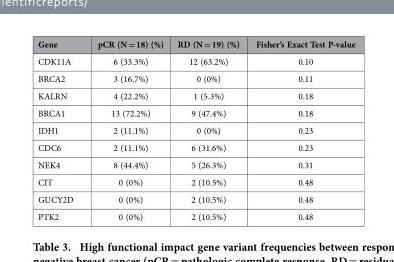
<table><thead><tr><td>Gene</td><td>pCR (N = 18) (%)</td><td>RD (N = 19) (%)</td><td>Fisher’s Exact Test P-value</td></tr></thead><tbody><tr><td>CDK11A</td><td>6 (33.3%)</td><td>12 (63.2%)</td><td>0.10</td></tr><tr><td>BRCA2</td><td>3 (16.7%)</td><td>0 (0%)</td><td>0.11</td></tr><tr><td>KALRN</td><td>4 (22.2%)</td><td>1 (5.3%)</td><td>0.18</td></tr><tr><td>BRCA1</td><td>13 (72.2%)</td><td>9 (47.4%)</td><td>0.18</td></tr><tr><td>IDH1</td><td>2 (11.1%)</td><td>0 (0%)</td><td>0.23</td></tr><tr><td>CDC6</td><td>2 (11.1%)</td><td>6 (31.6%)</td><td>0.23</td></tr><tr><td>NEK4</td><td>8 (44.4%)</td><td>5 (26.3%)</td><td>0.31</td></tr><tr><td>CIT</td><td>0 (0%)</td><td>2 (10.5%)</td><td>0.48</td></tr><tr><td>GUCY2D</td><td>0 (0%)</td><td>2 (10.5%)</td><td>0.48</td></tr><tr><td>PTK2</td><td>0 (0%)</td><td>2 (10.5%)</td><td>0.48</td></tr></tbody></table>